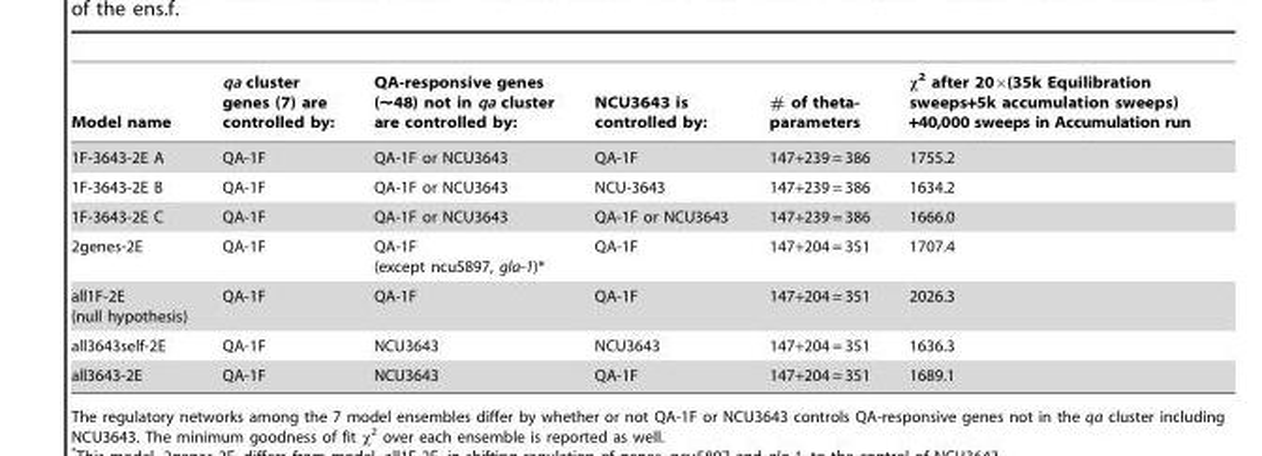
<table><thead><tr><td>Model name</td><td>qa cluster genes (7) are controlled by:</td><td>QA-responsive genes (∼48) not in qa cluster are controlled by:</td><td>NCU3643 is controlled by:</td><td># of theta- parameters</td><td>χ<sup>2</sup> after 20×(35k Equilibration sweeps+5k accumulation sweeps) +40,000 sweeps in Accumulation run</td></tr></thead><tbody><tr><td>1F-3643-2E A</td><td>QA-1F</td><td>QA-1F or NCU3643</td><td>QA-1F</td><td>147+239 = 386</td><td>1755.2</td></tr><tr><td>1F-3643-2E B</td><td>QA-1F</td><td>QA-1F or NCU3643</td><td>NCU-3643</td><td>147+239 = 386</td><td>1634.2</td></tr><tr><td>1F-3643-2E C</td><td>QA-1F</td><td>QA-1F or NCU3643</td><td>QA-1F or NCU3643</td><td>147+239 = 386</td><td>1666.0</td></tr><tr><td>2genes-2E</td><td>QA-1F</td><td>QA-1F (except ncu5897, gla-1)*</td><td>QA-1F</td><td>147+204 = 351</td><td>1707.4</td></tr><tr><td>all1F-2E (null hypothesis)</td><td>QA-1F</td><td>QA-1F</td><td>QA-1F</td><td>147+204 = 351</td><td>2026.3</td></tr><tr><td>all3643self-2E</td><td>QA-1F</td><td>NCU3643</td><td>NCU3643</td><td>147+204 = 351</td><td>1636.3</td></tr><tr><td>all3643-2E</td><td>QA-1F</td><td>NCU3643</td><td>QA-1F</td><td>147+204 = 351</td><td>1689.1</td></tr></tbody></table>